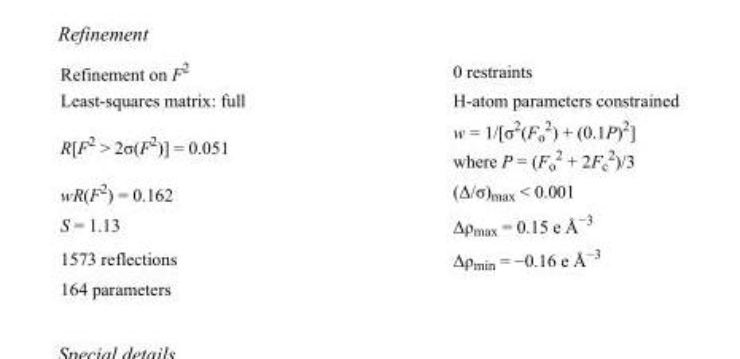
<table><tbody><tr><td>Refinement on F<sup>2</sup></td><td>0 restraints</td></tr><tr><td>Least-squares matrix: full</td><td>H-atom parameters constrained</td></tr><tr><td>R[F<sup>2</sup> &gt; 2σ(F<sup>2</sup>)] = 0.051</td><td>w = 1/[σ<sup>2</sup>(F<sub>o</sub> <sup>2</sup>) + (0.1P)<sup>2</sup>] where P = (F<sub>o</sub> <sup>2</sup> + 2F<sub>c</sub> <sup>2</sup>)/3</td></tr><tr><td>wR(F<sup>2</sup>) = 0.162</td><td>(Δ/σ)<sub>max</sub> &lt; 0.001</td></tr><tr><td>S = 1.13</td><td>Δρ<sub>max</sub> = 0.15 e Å<sup>−3</sup></td></tr><tr><td>1573 reflections</td><td>Δρ<sub>min</sub> = −0.16 e Å<sup>−3</sup></td></tr><tr><td>164 parameters</td><td></td></tr></tbody></table>